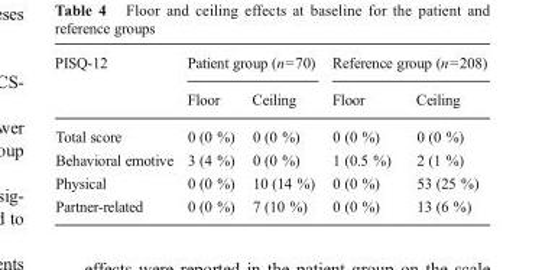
<table><thead><tr><td rowspan="2">PISQ-12</td><td colspan="2">Patient group (n=70)</td><td colspan="2">Reference group (n=208)</td></tr><tr><td>Floor</td><td>Ceiling</td><td>Floor</td><td>Ceiling</td></tr></thead><tbody><tr><td>Total score</td><td>0 (0 %)</td><td>0 (0 %)</td><td>0 (0 %)</td><td>0 (0 %)</td></tr><tr><td>Behavioral emotive</td><td>3 (4 %)</td><td>0 (0 %)</td><td>1 (0.5 %)</td><td>2 (1 %)</td></tr><tr><td>Physical</td><td>0 (0 %)</td><td>10 (14 %)</td><td>0 (0 %)</td><td>53 (25 %)</td></tr><tr><td>Partner-related</td><td>0 (0 %)</td><td>7 (10 %)</td><td>0 (0 %)</td><td>13 (6 %)</td></tr></tbody></table>